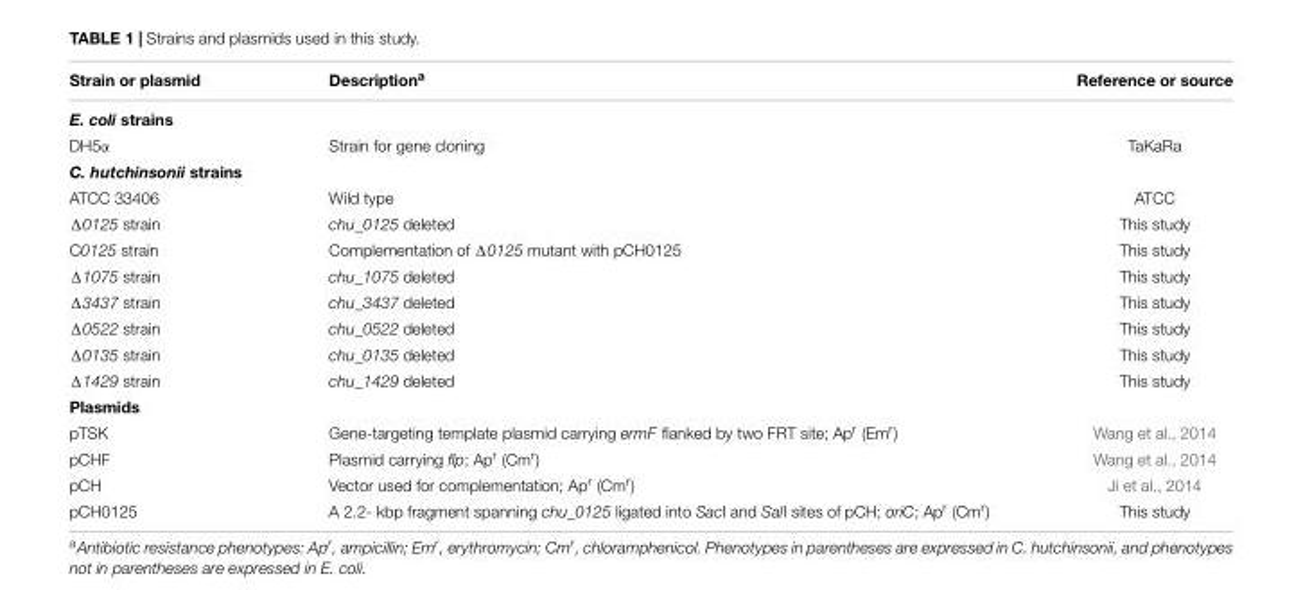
<table><thead><tr><td>Strain or plasmid</td><td>Description<sup>a</sup></td><td>Reference or source</td></tr></thead><tbody><tr><td colspan="3">E. coli strains</td></tr><tr><td>DH5α</td><td>Strain for gene cloning</td><td>TaKaRa</td></tr><tr><td colspan="3">C. hutchinsonii strains</td></tr><tr><td>ATCC 33406</td><td>Wild type</td><td>ATCC</td></tr><tr><td>Δ0125 strain</td><td>chu_0125 deleted</td><td>This study</td></tr><tr><td>C0125 strain</td><td>Complementation of Δ0125 mutant with pCH0125</td><td>This study</td></tr><tr><td>Δ1075 strain</td><td>chu_1075 deleted</td><td>This study</td></tr><tr><td>Δ3437 strain</td><td>chu_3437 deleted</td><td>This study</td></tr><tr><td>Δ0522 strain</td><td>chu_0522 deleted</td><td>This study</td></tr><tr><td>Δ0135 strain</td><td>chu_0135 deleted</td><td>This study</td></tr><tr><td>Δ1429 strain</td><td>chu_1429 deleted</td><td>This study</td></tr><tr><td colspan="3">Plasmids</td></tr><tr><td>pTSK</td><td>Gene-targeting template plasmid carrying ermF flanked by two FRT site; Ap<sup>r</sup> (Em<sup>r</sup>)</td><td>Wang et al., 2014</td></tr><tr><td>pCHF</td><td>Plasmid carrying flp; Ap<sup>r</sup> (Cm<sup>r</sup>)</td><td>Wang et al., 2014</td></tr><tr><td>pCH</td><td>Vector used for complementation; Ap<sup>r</sup> (Cm<sup>r</sup>)</td><td>Ji et al., 2014</td></tr><tr><td>pCH0125</td><td>A 2.2- kbp fragment spanning chu_0125 ligated into SacI and SalI sites of pCH; oriC; Ap<sup>r</sup> (Cm<sup>r</sup>)</td><td>This study</td></tr></tbody></table>